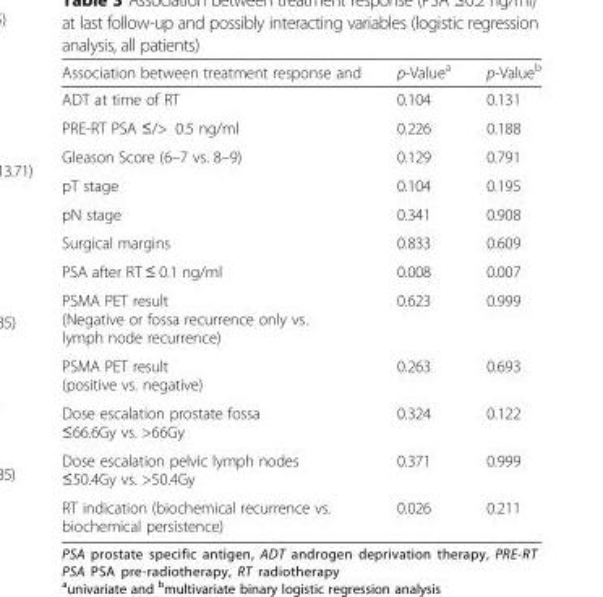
<table><thead><tr><td>Association between treatment response and</td><td>p-Value<sup>a</sup></td><td>p-Value<sup>b</sup></td></tr></thead><tbody><tr><td>ADT at time of RT</td><td>0.104</td><td>0.131</td></tr><tr><td>PRE-RT PSA ≤/&gt; 0.5 ng/ml</td><td>0.226</td><td>0.188</td></tr><tr><td>Gleason Score (6–7 vs. 8–9)</td><td>0.129</td><td>0.791</td></tr><tr><td>pT stage</td><td>0.104</td><td>0.195</td></tr><tr><td>pN stage</td><td>0.341</td><td>0.908</td></tr><tr><td>Surgical margins</td><td>0.833</td><td>0.609</td></tr><tr><td>PSA after RT ≤ 0.1 ng/ml</td><td>0.008</td><td>0.007</td></tr><tr><td>PSMA PET result (Negative or fossa recurrence only vs. lymph node recurrence)</td><td>0.623</td><td>0.999</td></tr><tr><td>PSMA PET result (positive vs. negative)</td><td>0.263</td><td>0.693</td></tr><tr><td>Dose escalation prostate fossa ≤66.6Gy vs. &gt;66Gy</td><td>0.324</td><td>0.122</td></tr><tr><td>Dose escalation pelvic lymph nodes ≤50.4Gy vs. &gt;50.4Gy</td><td>0.371</td><td>0.999</td></tr><tr><td>RT indication (biochemical recurrence vs. biochemical persistence)</td><td>0.026</td><td>0.211</td></tr></tbody></table>